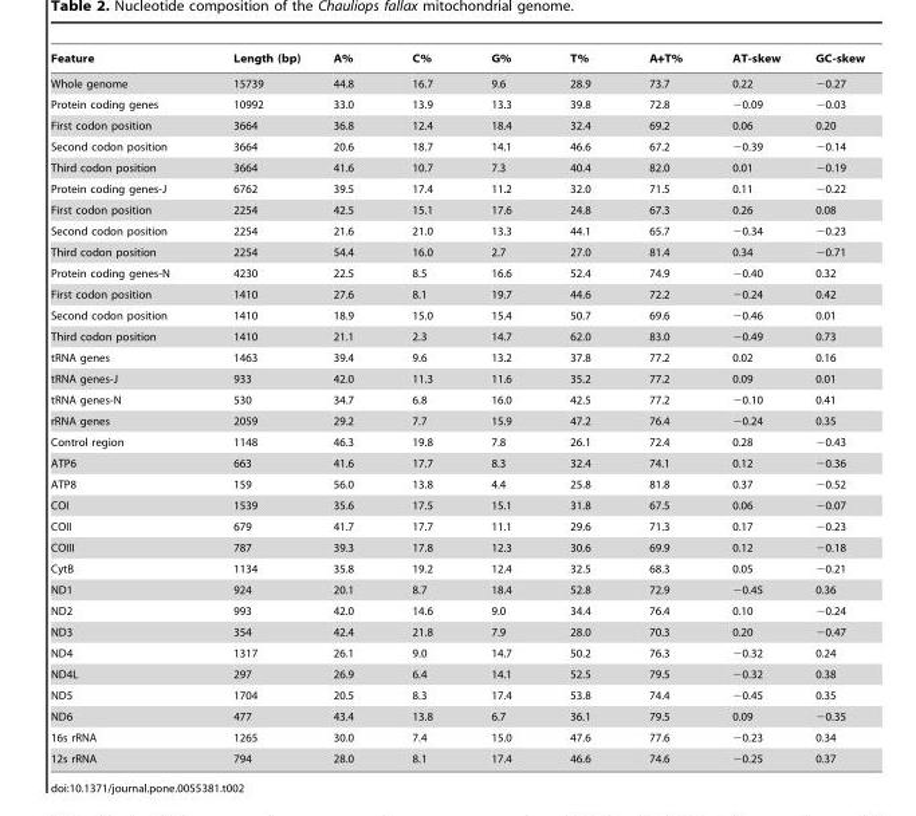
<table><thead><tr><td>Feature</td><td>Length (bp)</td><td>A%</td><td>C%</td><td>G%</td><td>T%</td><td>A+T%</td><td>AT-skew</td><td>GC-skew</td></tr></thead><tbody><tr><td>Whole genome</td><td>15739</td><td>44.8</td><td>16.7</td><td>9.6</td><td>28.9</td><td>73.7</td><td>0.22</td><td>−0.27</td></tr><tr><td>Protein coding genes</td><td>10992</td><td>33.0</td><td>13.9</td><td>13.3</td><td>39.8</td><td>72.8</td><td>−0.09</td><td>−0.03</td></tr><tr><td>First codon position</td><td>3664</td><td>36.8</td><td>12.4</td><td>18.4</td><td>32.4</td><td>69.2</td><td>0.06</td><td>0.20</td></tr><tr><td>Second codon position</td><td>3664</td><td>20.6</td><td>18.7</td><td>14.1</td><td>46.6</td><td>67.2</td><td>−0.39</td><td>−0.14</td></tr><tr><td>Third codon position</td><td>3664</td><td>41.6</td><td>10.7</td><td>7.3</td><td>40.4</td><td>82.0</td><td>0.01</td><td>−0.19</td></tr><tr><td>Protein coding genes-J</td><td>6762</td><td>39.5</td><td>17.4</td><td>11.2</td><td>32.0</td><td>71.5</td><td>0.11</td><td>−0.22</td></tr><tr><td>First codon position</td><td>2254</td><td>42.5</td><td>15.1</td><td>17.6</td><td>24.8</td><td>67.3</td><td>0.26</td><td>0.08</td></tr><tr><td>Second codon position</td><td>2254</td><td>21.6</td><td>21.0</td><td>13.3</td><td>44.1</td><td>65.7</td><td>−0.34</td><td>−0.23</td></tr><tr><td>Third codon position</td><td>2254</td><td>54.4</td><td>16.0</td><td>2.7</td><td>27.0</td><td>81.4</td><td>0.34</td><td>−0.71</td></tr><tr><td>Protein coding genes-N</td><td>4230</td><td>22.5</td><td>8.5</td><td>16.6</td><td>52.4</td><td>74.9</td><td>−0.40</td><td>0.32</td></tr><tr><td>First codon position</td><td>1410</td><td>27.6</td><td>8.1</td><td>19.7</td><td>44.6</td><td>72.2</td><td>−0.24</td><td>0.42</td></tr><tr><td>Second codon position</td><td>1410</td><td>18.9</td><td>15.0</td><td>15.4</td><td>50.7</td><td>69.6</td><td>−0.46</td><td>0.01</td></tr><tr><td>Third codon position</td><td>1410</td><td>21.1</td><td>2.3</td><td>14.7</td><td>62.0</td><td>83.0</td><td>−0.49</td><td>0.73</td></tr><tr><td>tRNA genes</td><td>1463</td><td>39.4</td><td>9.6</td><td>13.2</td><td>37.8</td><td>77.2</td><td>0.02</td><td>0.16</td></tr><tr><td>tRNA genes-J</td><td>933</td><td>42.0</td><td>11.3</td><td>11.6</td><td>35.2</td><td>77.2</td><td>0.09</td><td>0.01</td></tr><tr><td>tRNA genes-N</td><td>530</td><td>34.7</td><td>6.8</td><td>16.0</td><td>42.5</td><td>77.2</td><td>−0.10</td><td>0.41</td></tr><tr><td>rRNA genes</td><td>2059</td><td>29.2</td><td>7.7</td><td>15.9</td><td>47.2</td><td>76.4</td><td>−0.24</td><td>0.35</td></tr><tr><td>Control region</td><td>1148</td><td>46.3</td><td>19.8</td><td>7.8</td><td>26.1</td><td>72.4</td><td>0.28</td><td>−0.43</td></tr><tr><td>ATP6</td><td>663</td><td>41.6</td><td>17.7</td><td>8.3</td><td>32.4</td><td>74.1</td><td>0.12</td><td>−0.36</td></tr><tr><td>ATP8</td><td>159</td><td>56.0</td><td>13.8</td><td>4.4</td><td>25.8</td><td>81.8</td><td>0.37</td><td>−0.52</td></tr><tr><td>COI</td><td>1539</td><td>35.6</td><td>17.5</td><td>15.1</td><td>31.8</td><td>67.5</td><td>0.06</td><td>−0.07</td></tr><tr><td>COII</td><td>679</td><td>41.7</td><td>17.7</td><td>11.1</td><td>29.6</td><td>71.3</td><td>0.17</td><td>−0.23</td></tr><tr><td>COIII</td><td>787</td><td>39.3</td><td>17.8</td><td>12.3</td><td>30.6</td><td>69.9</td><td>0.12</td><td>−0.18</td></tr><tr><td>CytB</td><td>1134</td><td>35.8</td><td>19.2</td><td>12.4</td><td>32.5</td><td>68.3</td><td>0.05</td><td>−0.21</td></tr><tr><td>ND1</td><td>924</td><td>20.1</td><td>8.7</td><td>18.4</td><td>52.8</td><td>72.9</td><td>−0.45</td><td>0.36</td></tr><tr><td>ND2</td><td>993</td><td>42.0</td><td>14.6</td><td>9.0</td><td>34.4</td><td>76.4</td><td>0.10</td><td>−0.24</td></tr><tr><td>ND3</td><td>354</td><td>42.4</td><td>21.8</td><td>7.9</td><td>28.0</td><td>70.3</td><td>0.20</td><td>−0.47</td></tr><tr><td>ND4</td><td>1317</td><td>26.1</td><td>9.0</td><td>14.7</td><td>50.2</td><td>76.3</td><td>−0.32</td><td>0.24</td></tr><tr><td>ND4L</td><td>297</td><td>26.9</td><td>6.4</td><td>14.1</td><td>52.5</td><td>79.5</td><td>−0.32</td><td>0.38</td></tr><tr><td>ND5</td><td>1704</td><td>20.5</td><td>8.3</td><td>17.4</td><td>53.8</td><td>74.4</td><td>−0.45</td><td>0.35</td></tr><tr><td>ND6</td><td>477</td><td>43.4</td><td>13.8</td><td>6.7</td><td>36.1</td><td>79.5</td><td>0.09</td><td>−0.35</td></tr><tr><td>16s rRNA</td><td>1265</td><td>30.0</td><td>7.4</td><td>15.0</td><td>47.6</td><td>77.6</td><td>−0.23</td><td>0.34</td></tr><tr><td>12s rRNA</td><td>794</td><td>28.0</td><td>8.1</td><td>17.4</td><td>46.6</td><td>74.6</td><td>−0.25</td><td>0.37</td></tr></tbody></table>